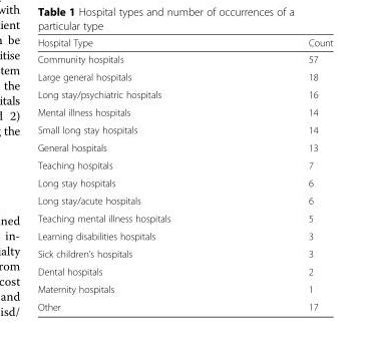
<table><thead><tr><td>Hospital Type</td><td>Count</td></tr></thead><tbody><tr><td>Community hospitals</td><td>57</td></tr><tr><td>Large general hospitals</td><td>18</td></tr><tr><td>Long stay/psychiatric hospitals</td><td>16</td></tr><tr><td>Mental illness hospitals</td><td>14</td></tr><tr><td>Small long stay hospitals</td><td>14</td></tr><tr><td>General hospitals</td><td>13</td></tr><tr><td>Teaching hospitals</td><td>7</td></tr><tr><td>Long stay hospitals</td><td>6</td></tr><tr><td>Long stay/acute hospitals</td><td>6</td></tr><tr><td>Teaching mental illness hospitals</td><td>5</td></tr><tr><td>Learning disabilities hospitals</td><td>3</td></tr><tr><td>Sick children’s hospitals</td><td>3</td></tr><tr><td>Dental hospitals</td><td>2</td></tr><tr><td>Maternity hospitals</td><td>1</td></tr><tr><td>Other</td><td>17</td></tr></tbody></table>